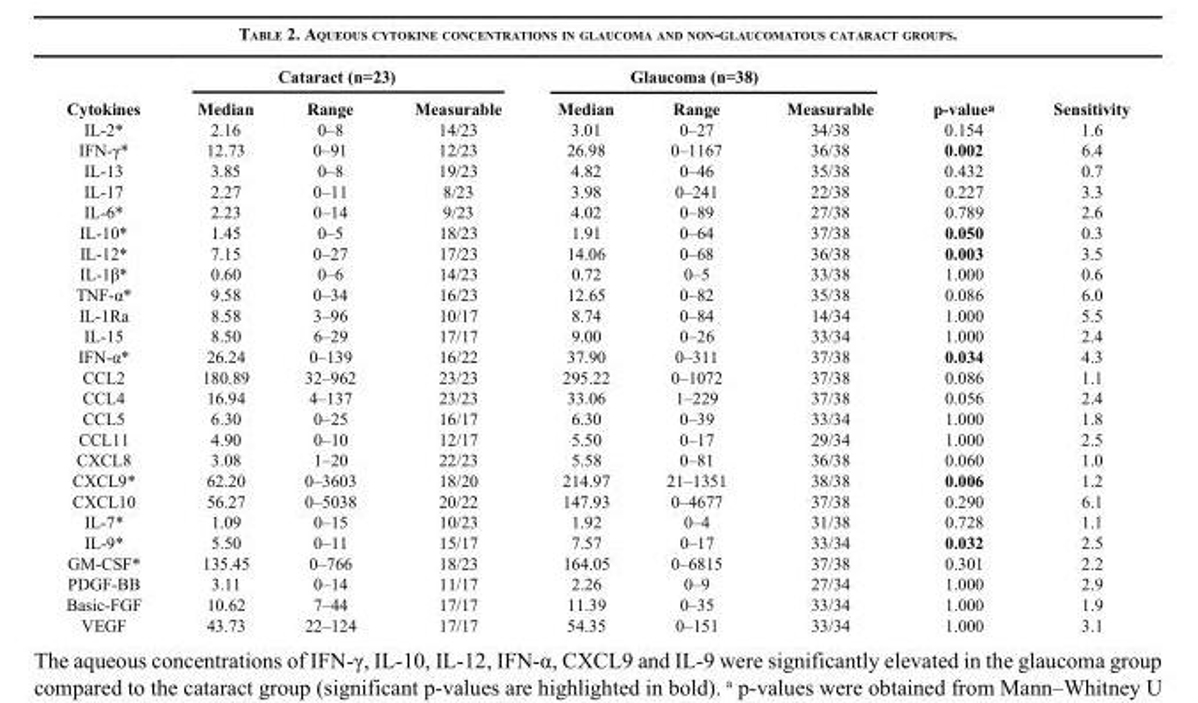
<table><thead><tr><td rowspan="2">Cytokines</td><td colspan="3">Cataract (n=23)</td><td colspan="3">Glaucoma (n=38)</td><td rowspan="2">p-value<sup>a</sup></td><td rowspan="2">Sensitivity</td></tr><tr><td>Median</td><td>Range</td><td>Measurable</td><td>Median</td><td>Range</td><td>Measurable</td></tr></thead><tbody><tr><td>IL-2*</td><td>2.16</td><td>0–8</td><td>14/23</td><td>3.01</td><td>0–27</td><td>34/38</td><td>0.154</td><td>1.6</td></tr><tr><td>IFN-γ*</td><td>12.73</td><td>0–91</td><td>12/23</td><td>26.98</td><td>0–1167</td><td>36/38</td><td>0.002</td><td>6.4</td></tr><tr><td>IL-13</td><td>3.85</td><td>0–8</td><td>19/23</td><td>4.82</td><td>0–46</td><td>35/38</td><td>0.432</td><td>0.7</td></tr><tr><td>IL-17</td><td>2.27</td><td>0–11</td><td>8/23</td><td>3.98</td><td>0–241</td><td>22/38</td><td>0.227</td><td>3.3</td></tr><tr><td>IL-6*</td><td>2.23</td><td>0–14</td><td>9/23</td><td>4.02</td><td>0–89</td><td>27/38</td><td>0.789</td><td>2.6</td></tr><tr><td>IL-10*</td><td>1.45</td><td>0–5</td><td>18/23</td><td>1.91</td><td>0–64</td><td>37/38</td><td>0.050</td><td>0.3</td></tr><tr><td>IL-12*</td><td>7.15</td><td>0–27</td><td>17/23</td><td>14.06</td><td>0–68</td><td>36/38</td><td>0.003</td><td>3.5</td></tr><tr><td>IL-1β*</td><td>0.60</td><td>0–6</td><td>14/23</td><td>0.72</td><td>0–5</td><td>33/38</td><td>1.000</td><td>0.6</td></tr><tr><td>TNF-α*</td><td>9.58</td><td>0–34</td><td>16/23</td><td>12.65</td><td>0–82</td><td>35/38</td><td>0.086</td><td>6.0</td></tr><tr><td>IL-1Ra</td><td>8.58</td><td>3–96</td><td>10/17</td><td>8.74</td><td>0–84</td><td>14/34</td><td>1.000</td><td>5.5</td></tr><tr><td>IL-15</td><td>8.50</td><td>6–29</td><td>17/17</td><td>9.00</td><td>0–26</td><td>33/34</td><td>1.000</td><td>2.4</td></tr><tr><td>IFN-α*</td><td>26.24</td><td>0–139</td><td>16/22</td><td>37.90</td><td>0–311</td><td>37/38</td><td>0.034</td><td>4.3</td></tr><tr><td>CCL2</td><td>180.89</td><td>32–962</td><td>23/23</td><td>295.22</td><td>0–1072</td><td>37/38</td><td>0.086</td><td>1.1</td></tr><tr><td>CCL4</td><td>16.94</td><td>4–137</td><td>23/23</td><td>33.06</td><td>1–229</td><td>37/38</td><td>0.056</td><td>2.4</td></tr><tr><td>CCL5</td><td>6.30</td><td>0–25</td><td>16/17</td><td>6.30</td><td>0–39</td><td>33/34</td><td>1.000</td><td>1.8</td></tr><tr><td>CCL11</td><td>4.90</td><td>0–10</td><td>12/17</td><td>5.50</td><td>0–17</td><td>29/34</td><td>1.000</td><td>2.5</td></tr><tr><td>CXCL8</td><td>3.08</td><td>1–20</td><td>22/23</td><td>5.58</td><td>0–81</td><td>36/38</td><td>0.060</td><td>1.0</td></tr><tr><td>CXCL9*</td><td>62.20</td><td>0–3603</td><td>18/20</td><td>214.97</td><td>21–1351</td><td>38/38</td><td>0.006</td><td>1.2</td></tr><tr><td>CXCL10</td><td>56.27</td><td>0–5038</td><td>20/22</td><td>147.93</td><td>0–4677</td><td>37/38</td><td>0.290</td><td>6.1</td></tr><tr><td>IL-7*</td><td>1.09</td><td>0–15</td><td>10/23</td><td>1.92</td><td>0–4</td><td>31/38</td><td>0.728</td><td>1.1</td></tr><tr><td>IL-9*</td><td>5.50</td><td>0–11</td><td>15/17</td><td>7.57</td><td>0–17</td><td>33/34</td><td>0.032</td><td>2.5</td></tr><tr><td>GM-CSF*</td><td>135.45</td><td>0–766</td><td>18/23</td><td>164.05</td><td>0–6815</td><td>37/38</td><td>0.301</td><td>2.2</td></tr><tr><td>PDGF-BB</td><td>3.11</td><td>0–14</td><td>11/17</td><td>2.26</td><td>0–9</td><td>27/34</td><td>1.000</td><td>2.9</td></tr><tr><td>Basic-FGF</td><td>10.62</td><td>7–44</td><td>17/17</td><td>11.39</td><td>0–35</td><td>33/34</td><td>1.000</td><td>1.9</td></tr><tr><td>VEGF</td><td>43.73</td><td>22–124</td><td>17/17</td><td>54.35</td><td>0–151</td><td>33/34</td><td>1.000</td><td>3.1</td></tr></tbody></table>